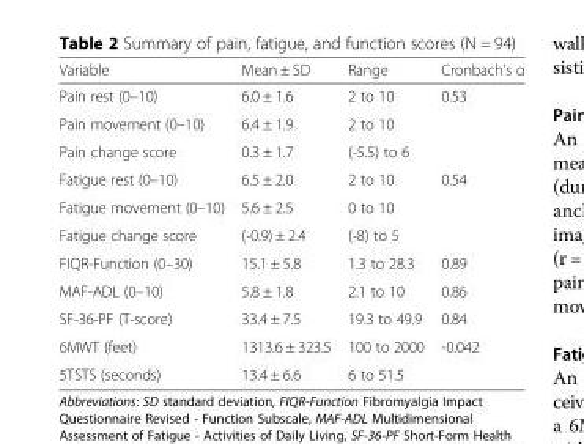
<table><thead><tr><td>Variable</td><td>Mean ± SD</td><td>Range</td><td>Cronbach&#x27;s α</td></tr></thead><tbody><tr><td>Pain rest (0–10)</td><td>6.0 ± 1.6</td><td>2 to 10</td><td rowspan="3">0.53</td></tr><tr><td>Pain movement (0–10)</td><td>6.4 ± 1.9</td><td>2 to 10</td></tr><tr><td>Pain change score</td><td>0.3 ± 1.7</td><td>(-5.5) to 6</td></tr><tr><td>Fatigue rest (0–10)</td><td>6.5 ± 2.0</td><td>2 to 10</td><td rowspan="3">0.54</td></tr><tr><td>Fatigue movement (0–10)</td><td>5.6 ± 2.5</td><td>0 to 10</td></tr><tr><td>Fatigue change score</td><td>(-0.9) ± 2.4</td><td>(-8) to 5</td></tr><tr><td>FIQR-Function (0–30)</td><td>15.1 ± 5.8</td><td>1.3 to 28.3</td><td>0.89</td></tr><tr><td>MAF-ADL (0–10)</td><td>5.8 ± 1.8</td><td>2.1 to 10</td><td>0.86</td></tr><tr><td>SF-36-PF (T-score)</td><td>33.4 ± 7.5</td><td>19.3 to 49.9</td><td>0.84</td></tr><tr><td>6MWT (feet)</td><td>1313.6 ± 323.5</td><td>100 to 2000</td><td rowspan="2">-0.042</td></tr><tr><td>5TSTS (seconds)</td><td>13.4 ± 6.6</td><td>6 to 51.5</td></tr></tbody></table>